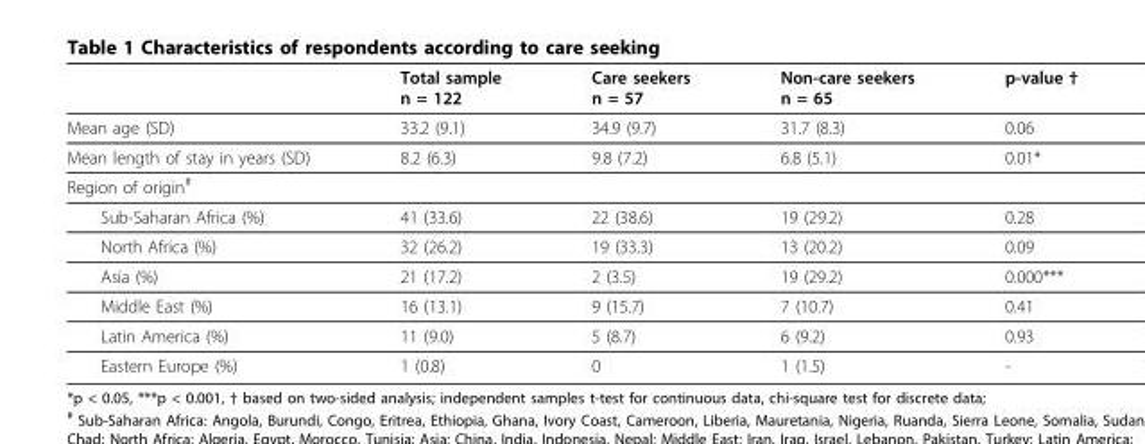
<table><thead><tr><td></td><td>Total sample n = 122</td><td>Care seekers n = 57</td><td>Non-care seekers n = 65</td><td>p-value †</td></tr></thead><tbody><tr><td>Mean age (SD)</td><td>33.2 (9.1)</td><td>34.9 (9.7)</td><td>31.7 (8.3)</td><td>0.06</td></tr><tr><td>Mean length of stay in years (SD)</td><td>8.2 (6.3)</td><td>9.8 (7.2)</td><td>6.8 (5.1)</td><td>0.01*</td></tr><tr><td colspan="5">Region of origin<sup>#</sup></td></tr><tr><td>Sub-Saharan Africa (%)</td><td>41 (33.6)</td><td>22 (38.6)</td><td>19 (29.2)</td><td>0.28</td></tr><tr><td>North Africa (%)</td><td>32 (26.2)</td><td>19 (33.3)</td><td>13 (20.2)</td><td>0.09</td></tr><tr><td>Asia (%)</td><td>21 (17.2)</td><td>2 (3.5)</td><td>19 (29.2)</td><td>0.000***</td></tr><tr><td>Middle East (%)</td><td>16 (13.1)</td><td>9 (15.7)</td><td>7 (10.7)</td><td>0.41</td></tr><tr><td>Latin America (%)</td><td>11 (9.0)</td><td>5 (8.7)</td><td>6 (9.2)</td><td>0.93</td></tr><tr><td>Eastern Europe (%)</td><td>1 (0.8)</td><td>0</td><td>1 (1.5)</td><td>-</td></tr></tbody></table>